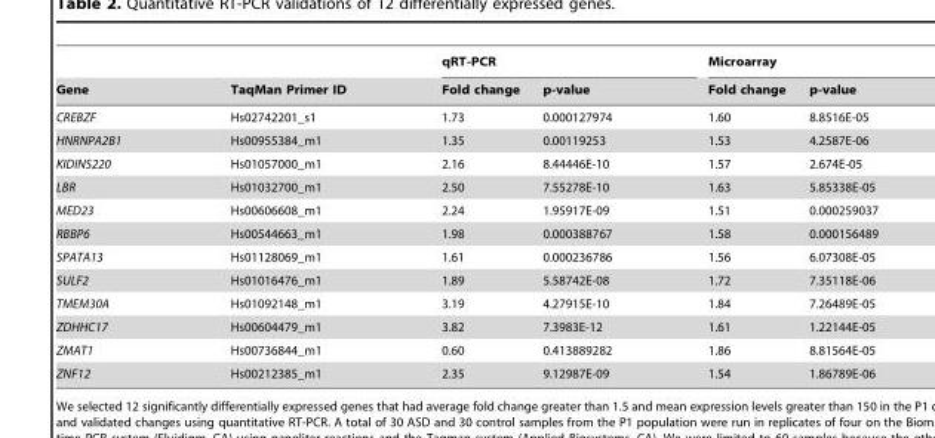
<table><thead><tr><td rowspan="2">Gene</td><td rowspan="2">TaqMan Primer ID</td><td colspan="2">qRT-PCR</td><td colspan="2">Microarray</td></tr><tr><td>Fold change</td><td>p-value</td><td>Fold change</td><td>p-value</td></tr></thead><tbody><tr><td>CREBZF</td><td>Hs02742201_s1</td><td>1.73</td><td>0.000127974</td><td>1.60</td><td>8.8516E-05</td></tr><tr><td>HNRNPA2B1</td><td>Hs00955384_m1</td><td>1.35</td><td>0.00119253</td><td>1.53</td><td>4.2587E-06</td></tr><tr><td>KIDINS220</td><td>Hs01057000_m1</td><td>2.16</td><td>8.44446E-10</td><td>1.57</td><td>2.674E-05</td></tr><tr><td>LBR</td><td>Hs01032700_m1</td><td>2.50</td><td>7.55278E-10</td><td>1.63</td><td>5.85338E-05</td></tr><tr><td>MED23</td><td>Hs00606608_m1</td><td>2.24</td><td>1.95917E-09</td><td>1.51</td><td>0.000259037</td></tr><tr><td>RBBP6</td><td>Hs00544663_m1</td><td>1.98</td><td>0.000388767</td><td>1.58</td><td>0.000156489</td></tr><tr><td>SPATA13</td><td>Hs01128069_m1</td><td>1.61</td><td>0.000236786</td><td>1.56</td><td>6.07308E-05</td></tr><tr><td>SULF2</td><td>Hs01016476_m1</td><td>1.89</td><td>5.58742E-08</td><td>1.72</td><td>7.35118E-06</td></tr><tr><td>TMEM30A</td><td>Hs01092148_m1</td><td>3.19</td><td>4.27915E-10</td><td>1.84</td><td>7.26489E-05</td></tr><tr><td>ZDHHC17</td><td>Hs00604479_m1</td><td>3.82</td><td>7.3983E-12</td><td>1.61</td><td>1.22144E-05</td></tr><tr><td>ZMAT1</td><td>Hs00736844_m1</td><td>0.60</td><td>0.413889282</td><td>1.86</td><td>8.81564E-05</td></tr><tr><td>ZNF12</td><td>Hs00212385_m1</td><td>2.35</td><td>9.12987E-09</td><td>1.54</td><td>1.86789E-06</td></tr></tbody></table>